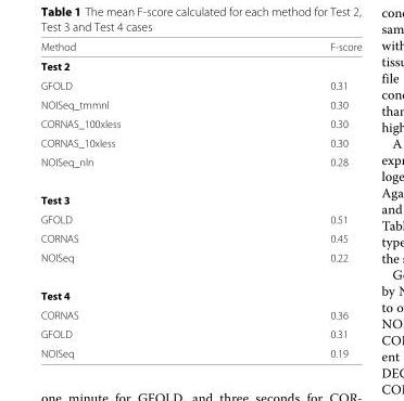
<table><thead><tr><td>Method</td><td>F-score</td></tr></thead><tbody><tr><td colspan="2">Test 2</td></tr><tr><td>GFOLD</td><td>0.31</td></tr><tr><td>NOISeq_tmmnl</td><td>0.30</td></tr><tr><td>CORNAS_100xless</td><td>0.30</td></tr><tr><td>CORNAS_10xless</td><td>0.30</td></tr><tr><td>NOISeq_nln</td><td>0.28</td></tr><tr><td colspan="2">Test 3</td></tr><tr><td>GFOLD</td><td>0.51</td></tr><tr><td>CORNAS</td><td>0.45</td></tr><tr><td>NOISeq</td><td>0.22</td></tr><tr><td colspan="2">Test 4</td></tr><tr><td>CORNAS</td><td>0.36</td></tr><tr><td>GFOLD</td><td>0.31</td></tr><tr><td>NOISeq</td><td>0.19</td></tr></tbody></table>